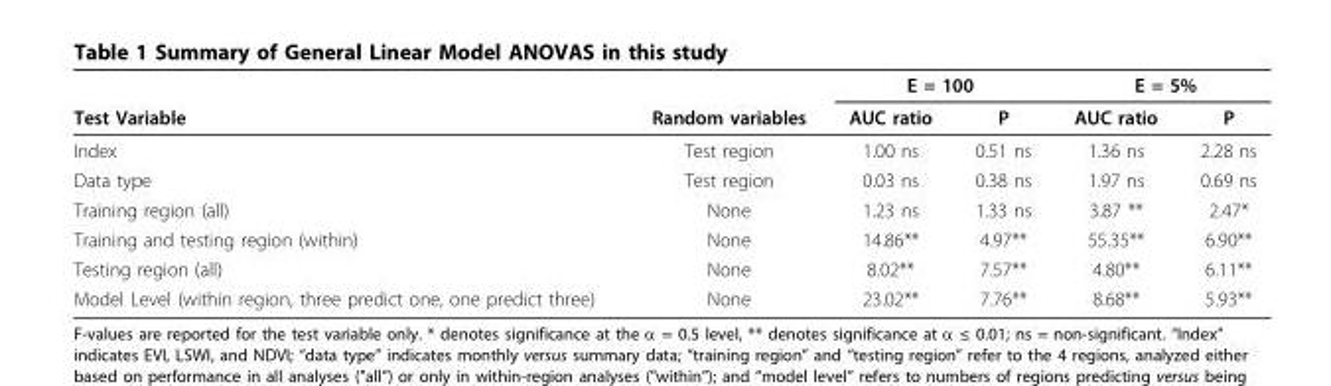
<table><thead><tr><td rowspan="2">Test Variable</td><td rowspan="2">Random variables</td><td colspan="2">E = 100</td><td colspan="2">E = 5%</td></tr><tr><td>AUC ratio</td><td>P</td><td>AUC ratio</td><td>P</td></tr></thead><tbody><tr><td>Index</td><td>Test region</td><td>1.00 ns</td><td>0.51 ns</td><td>1.36 ns</td><td>2.28 ns</td></tr><tr><td>Data type</td><td>Test region</td><td>0.03 ns</td><td>0.38 ns</td><td>1.97 ns</td><td>0.69 ns</td></tr><tr><td>Training region (all)</td><td>None</td><td>1.23 ns</td><td>1.33 ns</td><td>3.87 **</td><td>2.47*</td></tr><tr><td>Training and testing region (within)</td><td>None</td><td>14.86**</td><td>4.97**</td><td>55.35**</td><td>6.90**</td></tr><tr><td>Testing region (all)</td><td>None</td><td>8.02**</td><td>7.57**</td><td>4.80**</td><td>6.11**</td></tr><tr><td>Model Level (within region, three predict one, one predict three)</td><td>None</td><td>23.02**</td><td>7.76**</td><td>8.68**</td><td>5.93**</td></tr></tbody></table>